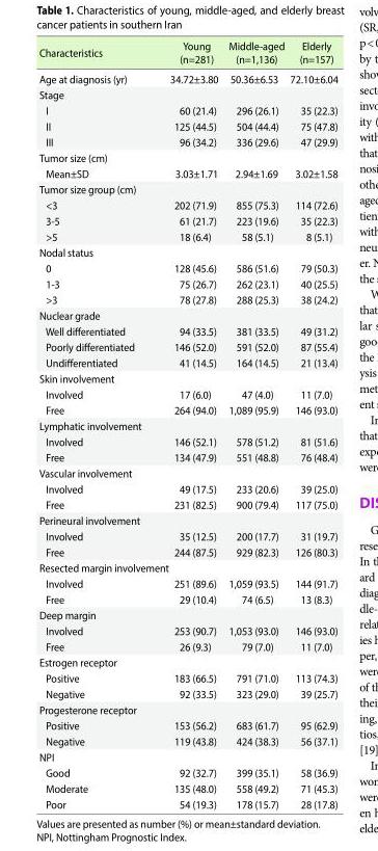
<table><thead><tr><td>Characteristics</td><td>Young (n=281)</td><td>Middle-aged (n=1,136)</td><td>Elderly (n=157)</td></tr></thead><tbody><tr><td>Age at diagnosis (yr)</td><td>34.72±3.80</td><td>50.36±6.53</td><td>72.10±6.04</td></tr><tr><td colspan="4">Stage</td></tr><tr><td>I</td><td>60 (21.4)</td><td>296 (26.1)</td><td>35 (22.3)</td></tr><tr><td>II</td><td>125 (44.5)</td><td>504 (44.4)</td><td>75 (47.8)</td></tr><tr><td>III</td><td>96 (34.2)</td><td>336 (29.6)</td><td>47 (29.9)</td></tr><tr><td colspan="4">Tumor size (cm)</td></tr><tr><td>Mean±SD</td><td>3.03±1.71</td><td>2.94±1.69</td><td>3.02±1.58</td></tr><tr><td colspan="4">Tumor size group (cm)</td></tr><tr><td>&lt;3</td><td>202 (71.9)</td><td>855 (75.3)</td><td>114 (72.6)</td></tr><tr><td>3-5</td><td>61 (21.7)</td><td>223 (19.6)</td><td>35 (22.3)</td></tr><tr><td>&gt;5</td><td>18 (6.4)</td><td>58 (5.1)</td><td>8 (5.1)</td></tr><tr><td colspan="4">Nodal status</td></tr><tr><td>0</td><td>128 (45.6)</td><td>586 (51.6)</td><td>79 (50.3)</td></tr><tr><td>1-3</td><td>75 (26.7)</td><td>262 (23.1)</td><td>40 (25.5)</td></tr><tr><td>&gt;3</td><td>78 (27.8)</td><td>288 (25.3)</td><td>38 (24.2)</td></tr><tr><td colspan="4">Nuclear grade</td></tr><tr><td>Well differentiated</td><td>94 (33.5)</td><td>381 (33.5)</td><td>49 (31.2)</td></tr><tr><td>Poorly differentiated</td><td>146 (52.0)</td><td>591 (52.0)</td><td>87 (55.4)</td></tr><tr><td>Undifferentiated</td><td>41 (14.5)</td><td>164 (14.5)</td><td>21 (13.4)</td></tr><tr><td colspan="4">Skin involvement</td></tr><tr><td>Involved</td><td>17 (6.0)</td><td>47 (4.0)</td><td>11 (7.0)</td></tr><tr><td>Free</td><td>264 (94.0)</td><td>1,089 (95.9)</td><td>146 (93.0)</td></tr><tr><td colspan="4">Lymphatic involvement</td></tr><tr><td>Involved</td><td>146 (52.1)</td><td>578 (51.2)</td><td>81 (51.6)</td></tr><tr><td>Free</td><td>134 (47.9)</td><td>551 (48.8)</td><td>76 (48.4)</td></tr><tr><td colspan="4">Vascular involvement</td></tr><tr><td>Involved</td><td>49 (17.5)</td><td>233 (20.6)</td><td>39 (25.0)</td></tr><tr><td>Free</td><td>231 (82.5)</td><td>900 (79.4)</td><td>117 (75.0)</td></tr><tr><td colspan="4">Perineural involvement</td></tr><tr><td>Involved</td><td>35 (12.5)</td><td>200 (17.7)</td><td>31 (19.7)</td></tr><tr><td>Free</td><td>244 (87.5)</td><td>929 (82.3)</td><td>126 (80.3)</td></tr><tr><td colspan="4">Resected margin involvement</td></tr><tr><td>Involved</td><td>251 (89.6)</td><td>1,059 (93.5)</td><td>144 (91.7)</td></tr><tr><td>Free</td><td>29 (10.4)</td><td>74 (6.5)</td><td>13 (8.3)</td></tr><tr><td colspan="4">Deep margin</td></tr><tr><td>Involved</td><td>253 (90.7)</td><td>1,053 (93.0)</td><td>146 (93.0)</td></tr><tr><td>Free</td><td>26 (9.3)</td><td>79 (7.0)</td><td>11 (7.0)</td></tr><tr><td colspan="4">Estrogen receptor</td></tr><tr><td>Positive</td><td>183 (66.5)</td><td>791 (71.0)</td><td>113 (74.3)</td></tr><tr><td>Negative</td><td>92 (33.5)</td><td>323 (29.0)</td><td>39 (25.7)</td></tr><tr><td colspan="4">Progesterone receptor</td></tr><tr><td>Positive</td><td>153 (56.2)</td><td>683 (61.7)</td><td>95 (62.9)</td></tr><tr><td>Negative</td><td>119 (43.8)</td><td>424 (38.3)</td><td>56 (37.1)</td></tr><tr><td colspan="4">NPI</td></tr><tr><td>Good</td><td>92 (32.7)</td><td>399 (35.1)</td><td>58 (36.9)</td></tr><tr><td>Moderate</td><td>135 (48.0)</td><td>558 (49.2)</td><td>71 (45.3)</td></tr><tr><td>Poor</td><td>54 (19.3)</td><td>178 (15.7)</td><td>28 (17.8)</td></tr></tbody></table>